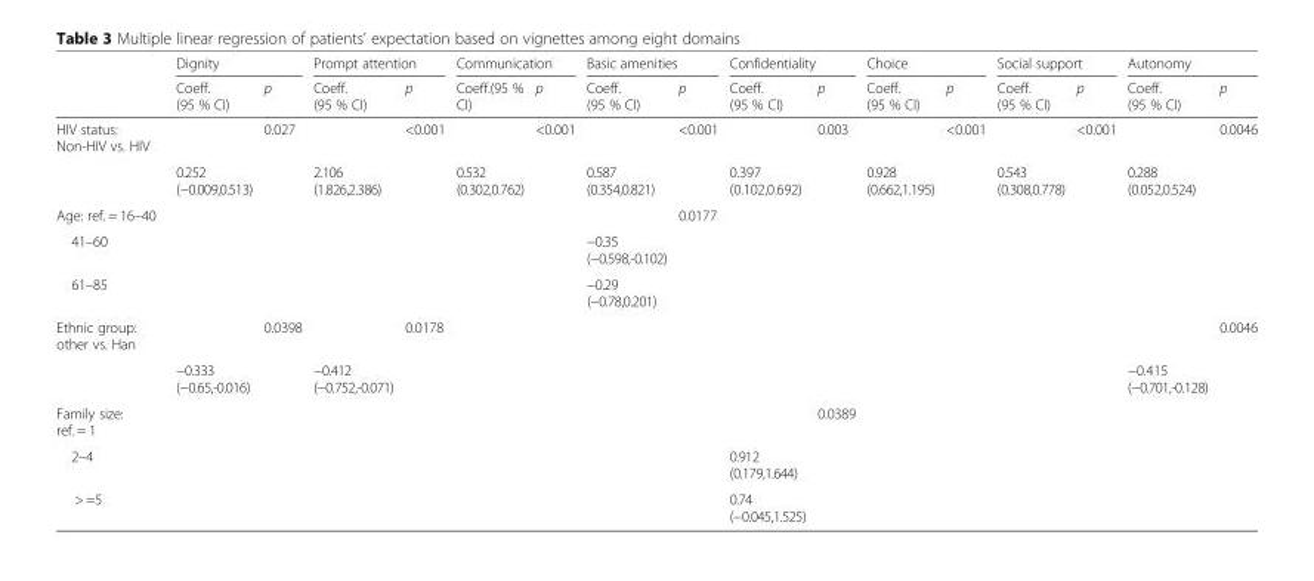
<table><thead><tr><td rowspan="2"></td><td colspan="2">Dignity</td><td colspan="2">Prompt attention</td><td colspan="2">Communication</td><td colspan="2">Basic amenities</td><td colspan="2">Confidentiality</td><td colspan="2">Choice</td><td colspan="2">Social support</td><td colspan="2">Autonomy</td></tr><tr><td>Coeff. (95 % CI)</td><td>p</td><td>Coeff. (95 % CI)</td><td>p</td><td>Coeff.(95 % CI)</td><td>p</td><td>Coeff. (95 % CI)</td><td>p</td><td>Coeff. (95 % CI)</td><td>p</td><td>Coeff. (95 % CI)</td><td>p</td><td>Coeff. (95 % CI)</td><td>p</td><td>Coeff. (95 % CI)</td><td>p</td></tr></thead><tbody><tr><td rowspan="2">HIV status: Non-HIV vs. HIV</td><td></td><td>0.027</td><td></td><td>&lt;0.001</td><td></td><td>&lt;0.001</td><td></td><td>&lt;0.001</td><td></td><td>0.003</td><td></td><td>&lt;0.001</td><td></td><td>&lt;0.001</td><td></td><td>0.0046</td></tr><tr><td>0.252 (−0.009,0.513)</td><td></td><td>2.106 (1.826,2.386)</td><td></td><td>0.532 (0.302,0.762)</td><td></td><td>0.587 (0.354,0.821)</td><td></td><td>0.397 (0.102,0.692)</td><td></td><td>0.928 (0.662,1.195)</td><td></td><td>0.543 (0.308,0.778)</td><td></td><td>0.288 (0.052,0.524)</td><td></td></tr><tr><td>Age: ref. = 16–40</td><td></td><td></td><td></td><td></td><td></td><td></td><td></td><td>0.0177</td><td></td><td></td><td></td><td></td><td></td><td></td><td></td><td></td></tr><tr><td>41–60</td><td></td><td></td><td></td><td></td><td></td><td></td><td>−0.35 (−0.598,-0.102)</td><td></td><td></td><td></td><td></td><td></td><td></td><td></td><td></td><td></td></tr><tr><td>61–85</td><td></td><td></td><td></td><td></td><td></td><td></td><td>−0.29 (−0.78,0.201)</td><td></td><td></td><td></td><td></td><td></td><td></td><td></td><td></td><td></td></tr><tr><td rowspan="2">Ethnic group: other vs. Han</td><td></td><td>0.0398</td><td></td><td>0.0178</td><td></td><td></td><td></td><td></td><td></td><td></td><td></td><td></td><td></td><td></td><td></td><td>0.0046</td></tr><tr><td>−0.333 (−0.65,-0.016)</td><td></td><td>−0.412 (−0.752,-0.071)</td><td></td><td></td><td></td><td></td><td></td><td></td><td></td><td></td><td></td><td></td><td></td><td>−0.415 (−0.701,-0.128)</td><td></td></tr><tr><td>Family size: ref. = 1</td><td></td><td></td><td></td><td></td><td></td><td></td><td></td><td></td><td></td><td>0.0389</td><td></td><td></td><td></td><td></td><td></td><td></td></tr><tr><td>2–4</td><td></td><td></td><td></td><td></td><td></td><td></td><td></td><td></td><td>0.912 (0.179,1.644)</td><td></td><td></td><td></td><td></td><td></td><td></td><td></td></tr><tr><td>&gt; =5</td><td></td><td></td><td></td><td></td><td></td><td></td><td></td><td></td><td>0.74 (−0.045,1.525)</td><td></td><td></td><td></td><td></td><td></td><td></td><td></td></tr></tbody></table>